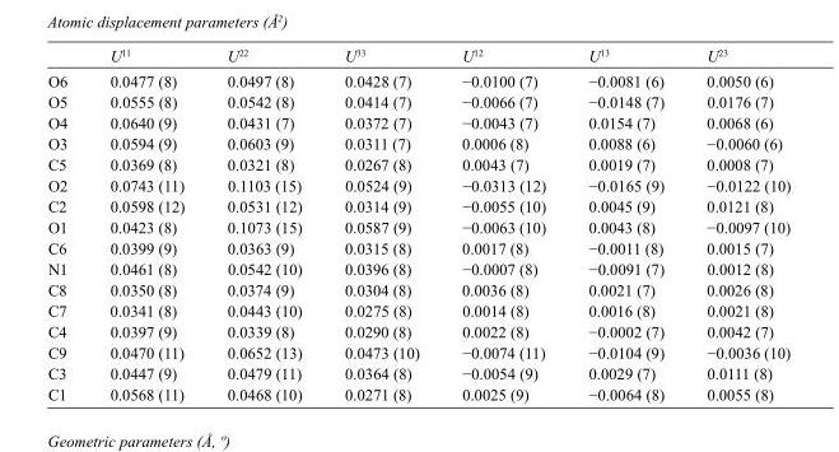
<table><thead><tr><td></td><td>U<sup>11</sup></td><td>U<sup>22</sup></td><td>U<sup>33</sup></td><td>U<sup>12</sup></td><td>U<sup>13</sup></td><td>U<sup>23</sup></td></tr></thead><tbody><tr><td>O6</td><td>0.0477 (8)</td><td>0.0497 (8)</td><td>0.0428 (7)</td><td>−0.0100 (7)</td><td>−0.0081 (6)</td><td>0.0050 (6)</td></tr><tr><td>O5</td><td>0.0555 (8)</td><td>0.0542 (8)</td><td>0.0414 (7)</td><td>−0.0066 (7)</td><td>−0.0148 (7)</td><td>0.0176 (7)</td></tr><tr><td>O4</td><td>0.0640 (9)</td><td>0.0431 (7)</td><td>0.0372 (7)</td><td>−0.0043 (7)</td><td>0.0154 (7)</td><td>0.0068 (6)</td></tr><tr><td>O3</td><td>0.0594 (9)</td><td>0.0603 (9)</td><td>0.0311 (7)</td><td>0.0006 (8)</td><td>0.0088 (6)</td><td>−0.0060 (6)</td></tr><tr><td>C5</td><td>0.0369 (8)</td><td>0.0321 (8)</td><td>0.0267 (8)</td><td>0.0043 (7)</td><td>0.0019 (7)</td><td>0.0008 (7)</td></tr><tr><td>O2</td><td>0.0743 (11)</td><td>0.1103 (15)</td><td>0.0524 (9)</td><td>−0.0313 (12)</td><td>−0.0165 (9)</td><td>−0.0122 (10)</td></tr><tr><td>C2</td><td>0.0598 (12)</td><td>0.0531 (12)</td><td>0.0314 (9)</td><td>−0.0055 (10)</td><td>0.0045 (9)</td><td>0.0121 (8)</td></tr><tr><td>O1</td><td>0.0423 (8)</td><td>0.1073 (15)</td><td>0.0587 (9)</td><td>−0.0063 (10)</td><td>0.0043 (8)</td><td>−0.0097 (10)</td></tr><tr><td>C6</td><td>0.0399 (9)</td><td>0.0363 (9)</td><td>0.0315 (8)</td><td>0.0017 (8)</td><td>−0.0011 (8)</td><td>0.0015 (7)</td></tr><tr><td>N1</td><td>0.0461 (8)</td><td>0.0542 (10)</td><td>0.0396 (8)</td><td>−0.0007 (8)</td><td>−0.0091 (7)</td><td>0.0012 (8)</td></tr><tr><td>C8</td><td>0.0350 (8)</td><td>0.0374 (9)</td><td>0.0304 (8)</td><td>0.0036 (8)</td><td>0.0021 (7)</td><td>0.0026 (8)</td></tr><tr><td>C7</td><td>0.0341 (8)</td><td>0.0443 (10)</td><td>0.0275 (8)</td><td>0.0014 (8)</td><td>0.0016 (8)</td><td>0.0021 (8)</td></tr><tr><td>C4</td><td>0.0397 (9)</td><td>0.0339 (8)</td><td>0.0290 (8)</td><td>0.0022 (8)</td><td>−0.0002 (7)</td><td>0.0042 (7)</td></tr><tr><td>C9</td><td>0.0470 (11)</td><td>0.0652 (13)</td><td>0.0473 (10)</td><td>−0.0074 (11)</td><td>−0.0104 (9)</td><td>−0.0036 (10)</td></tr><tr><td>C3</td><td>0.0447 (9)</td><td>0.0479 (11)</td><td>0.0364 (8)</td><td>−0.0054 (9)</td><td>0.0029 (7)</td><td>0.0111 (8)</td></tr><tr><td>C1</td><td>0.0568 (11)</td><td>0.0468 (10)</td><td>0.0271 (8)</td><td>0.0025 (9)</td><td>−0.0064 (8)</td><td>0.0055 (8)</td></tr></tbody></table>